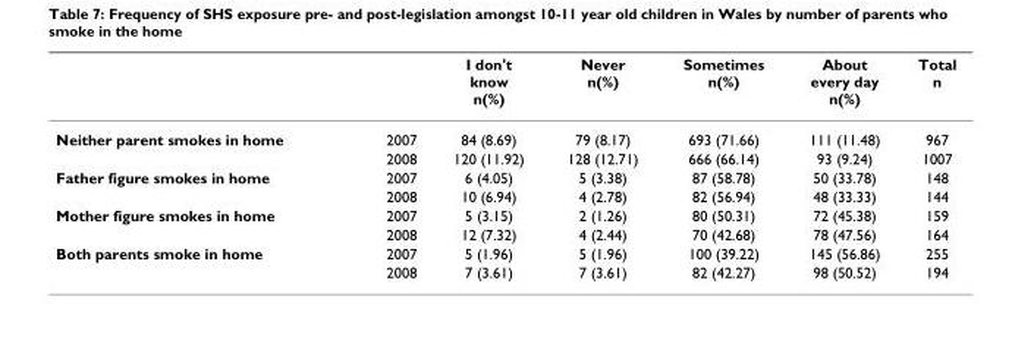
<table><thead><tr><td></td><td></td><td>I don&#x27;t know n(%)</td><td>Never n(%)</td><td>Sometimes n(%)</td><td>About every day n(%)</td><td>Total n</td></tr></thead><tbody><tr><td rowspan="2">Neither parent smokes in home</td><td>2007</td><td>84 (8.69)</td><td>79 (8.17)</td><td>693 (71.66)</td><td>111 (11.48)</td><td>967</td></tr><tr><td>2008</td><td>120 (11.92)</td><td>128 (12.71)</td><td>666 (66.14)</td><td>93 (9.24)</td><td>1007</td></tr><tr><td rowspan="2">Father figure smokes in home</td><td>2007</td><td>6 (4.05)</td><td>5 (3.38)</td><td>87 (58.78)</td><td>50 (33.78)</td><td>148</td></tr><tr><td>2008</td><td>10 (6.94)</td><td>4 (2.78)</td><td>82 (56.94)</td><td>48 (33.33)</td><td>144</td></tr><tr><td rowspan="2">Mother figure smokes in home</td><td>2007</td><td>5 (3.15)</td><td>2 (1.26)</td><td>80 (50.31)</td><td>72 (45.38)</td><td>159</td></tr><tr><td>2008</td><td>12 (7.32)</td><td>4 (2.44)</td><td>70 (42.68)</td><td>78 (47.56)</td><td>164</td></tr><tr><td rowspan="2">Both parents smoke in home</td><td>2007</td><td>5 (1.96)</td><td>5 (1.96)</td><td>100 (39.22)</td><td>145 (56.86)</td><td>255</td></tr><tr><td>2008</td><td>7 (3.61)</td><td>7 (3.61)</td><td>82 (42.27)</td><td>98 (50.52)</td><td>194</td></tr></tbody></table>